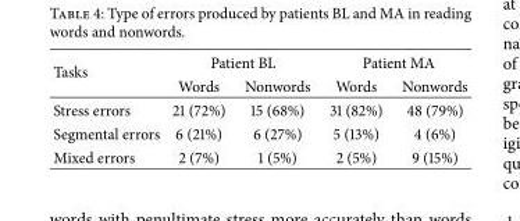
<table><thead><tr><td rowspan="2">Tasks</td><td colspan="2">Patient BL</td><td colspan="2">Patient MA</td></tr><tr><td>Words</td><td>Nonwords</td><td>Words</td><td>Nonwords</td></tr></thead><tbody><tr><td>Stress errors</td><td>21 (72%)</td><td>15 (68%)</td><td>31 (82%)</td><td>48 (79%)</td></tr><tr><td>Segmental errors</td><td>6 (21%)</td><td>6 (27%)</td><td>5 (13%)</td><td>4 (6%)</td></tr><tr><td>Mixed errors</td><td>2 (7%)</td><td>1 (5%)</td><td>2 (5%)</td><td>9 (15%)</td></tr></tbody></table>